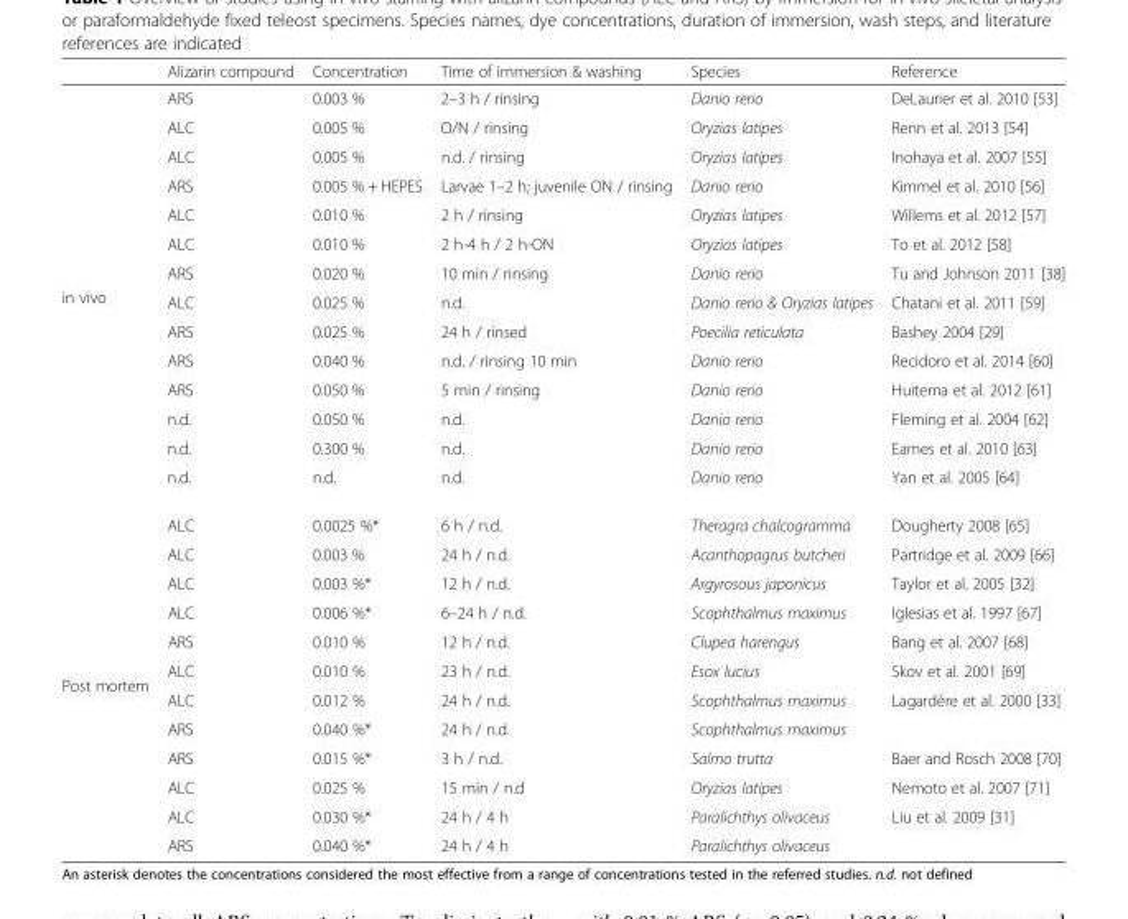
<table><thead><tr><td></td><td>Alizarin compound</td><td>Concentration</td><td>Time of immersion &amp; washing</td><td>Species</td><td>Reference</td></tr></thead><tbody><tr><td rowspan="14">in vivo</td><td>ARS</td><td>0.003 %</td><td>2–3 h / rinsing</td><td>Danio rerio</td><td>DeLaurier et al. 2010 [53]</td></tr><tr><td>ALC</td><td>0.005 %</td><td>O/N / rinsing</td><td>Oryzias latipes</td><td>Renn et al. 2013 [54]</td></tr><tr><td>ALC</td><td>0.005 %</td><td>n.d. / rinsing</td><td>Oryzias latipes</td><td>Inohaya et al. 2007 [55]</td></tr><tr><td>ARS</td><td>0.005 % + HEPES</td><td>Larvae 1–2 h; juvenile ON / rinsing</td><td>Danio rerio</td><td>Kimmel et al. 2010 [56]</td></tr><tr><td>ALC</td><td>0.010 %</td><td>2 h / rinsing</td><td>Oryzias latipes</td><td>Willems et al. 2012 [57]</td></tr><tr><td>ALC</td><td>0.010 %</td><td>2 h-4 h / 2 h-ON</td><td>Oryzias latipes</td><td>To et al. 2012 [58]</td></tr><tr><td>ARS</td><td>0.020 %</td><td>10 min / rinsing</td><td>Danio rerio</td><td>Tu and Johnson 2011 [38]</td></tr><tr><td>ALC</td><td>0.025 %</td><td>n.d.</td><td>Danio rerio &amp; Oryzias latipes</td><td>Chatani et al. 2011 [59]</td></tr><tr><td>ARS</td><td>0.025 %</td><td>24 h / rinsed</td><td>Poecilia reticulata</td><td>Bashey 2004 [29]</td></tr><tr><td>ARS</td><td>0.040 %</td><td>n.d. / rinsing 10 min</td><td>Danio rerio</td><td>Recidoro et al. 2014 [60]</td></tr><tr><td>ARS</td><td>0.050 %</td><td>5 min / rinsing</td><td>Danio rerio</td><td>Huitema et al. 2012 [61]</td></tr><tr><td>n.d.</td><td>0.050 %</td><td>n.d.</td><td>Danio rerio</td><td>Fleming et al. 2004 [62]</td></tr><tr><td>n.d.</td><td>0.300 %</td><td>n.d.</td><td>Danio rerio</td><td>Eames et al. 2010 [63]</td></tr><tr><td>n.d.</td><td>n.d.</td><td>n.d.</td><td>Danio rerio</td><td>Yan et al. 2005 [64]</td></tr><tr><td rowspan="12">Post mortem</td><td>ALC</td><td>0.0025 %*</td><td>6 h / n.d.</td><td>Theragra chalcogramma</td><td>Dougherty 2008 [65]</td></tr><tr><td>ALC</td><td>0.003 %</td><td>24 h / n.d.</td><td>Acanthopagrus butcheri</td><td>Partridge et al. 2009 [66]</td></tr><tr><td>ALC</td><td>0.003 %*</td><td>12 h / n.d.</td><td>Argyrosous japonicus</td><td>Taylor et al. 2005 [32]</td></tr><tr><td>ALC</td><td>0.006 %*</td><td>6–24 h / n.d.</td><td>Scophthalmus maximus</td><td>Iglesias et al. 1997 [67]</td></tr><tr><td>ARS</td><td>0.010 %</td><td>12 h / n.d.</td><td>Clupea harengus</td><td>Bang et al. 2007 [68]</td></tr><tr><td>ALC</td><td>0.010 %</td><td>23 h / n.d.</td><td>Esox lucius</td><td>Skov et al. 2001 [69]</td></tr><tr><td>ALC</td><td>0.012 %</td><td>24 h / n.d.</td><td>Scophthalmus maximus</td><td rowspan="2">Lagardère et al. 2000 [33]</td></tr><tr><td>ARS</td><td>0.040 %*</td><td>24 h / n.d.</td><td>Scophthalmus maximus</td></tr><tr><td>ARS</td><td>0.015 %*</td><td>3 h / n.d.</td><td>Salmo trutta</td><td>Baer and Rosch 2008 [70]</td></tr><tr><td>ALC</td><td>0.025 %</td><td>15 min / n.d</td><td>Oryzias latipes</td><td>Nemoto et al. 2007 [71]</td></tr><tr><td>ALC</td><td>0.030 %*</td><td>24 h / 4 h</td><td>Paralichthys olivaceus</td><td rowspan="2">Liu et al. 2009 [31]</td></tr><tr><td>ARS</td><td>0.040 %*</td><td>24 h / 4 h</td><td>Paralichthys olivaceus</td></tr></tbody></table>